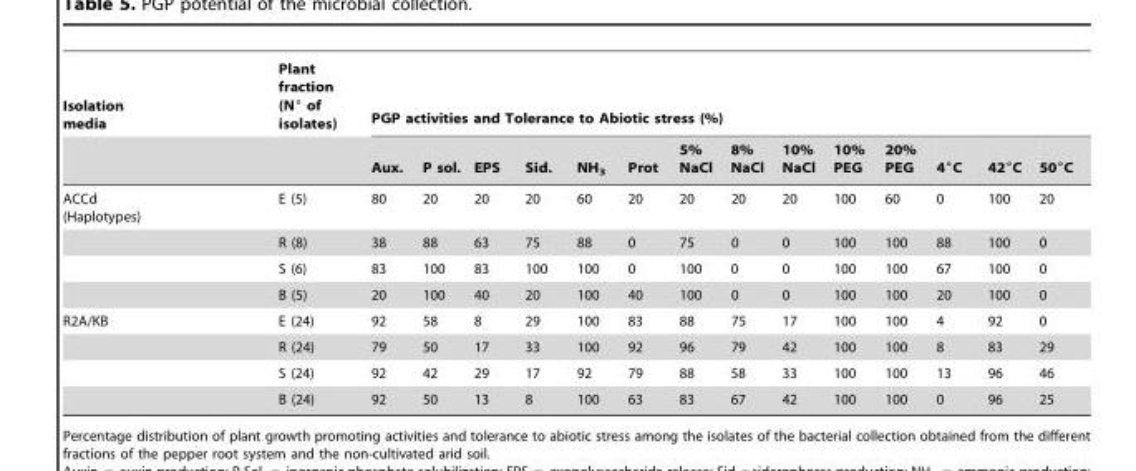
<table><thead><tr><td rowspan="2">Isolation media</td><td rowspan="2">Plant fraction (N° of isolates)</td><td colspan="14">PGP activities and Tolerance to Abiotic stress (%)</td></tr><tr><td>Aux.</td><td>P sol.</td><td>EPS</td><td>Sid.</td><td>NH<sub>3</sub></td><td>Prot</td><td>5% NaCl</td><td>8% NaCl</td><td>10% NaCl</td><td>10% PEG</td><td>20% PEG</td><td>4°C</td><td>42°C</td><td>50°C</td></tr></thead><tbody><tr><td rowspan="4">ACCd (Haplotypes)</td><td>E (5)</td><td>80</td><td>20</td><td>20</td><td>20</td><td>60</td><td>20</td><td>20</td><td>20</td><td>20</td><td>100</td><td>60</td><td>0</td><td>100</td><td>20</td></tr><tr><td>R (8)</td><td>38</td><td>88</td><td>63</td><td>75</td><td>88</td><td>0</td><td>75</td><td>0</td><td>0</td><td>100</td><td>100</td><td>88</td><td>100</td><td>0</td></tr><tr><td>S (6)</td><td>83</td><td>100</td><td>83</td><td>100</td><td>100</td><td>0</td><td>100</td><td>0</td><td>0</td><td>100</td><td>100</td><td>67</td><td>100</td><td>0</td></tr><tr><td>B (5)</td><td>20</td><td>100</td><td>40</td><td>20</td><td>100</td><td>40</td><td>100</td><td>0</td><td>0</td><td>100</td><td>100</td><td>20</td><td>100</td><td>0</td></tr><tr><td rowspan="4">R2A/KB</td><td>E (24)</td><td>92</td><td>58</td><td>8</td><td>29</td><td>100</td><td>83</td><td>88</td><td>75</td><td>17</td><td>100</td><td>100</td><td>4</td><td>92</td><td>0</td></tr><tr><td>R (24)</td><td>79</td><td>50</td><td>17</td><td>33</td><td>100</td><td>92</td><td>96</td><td>79</td><td>42</td><td>100</td><td>100</td><td>8</td><td>83</td><td>29</td></tr><tr><td>S (24)</td><td>92</td><td>42</td><td>29</td><td>17</td><td>92</td><td>79</td><td>88</td><td>58</td><td>33</td><td>100</td><td>100</td><td>13</td><td>96</td><td>46</td></tr><tr><td>B (24)</td><td>92</td><td>50</td><td>13</td><td>8</td><td>100</td><td>63</td><td>83</td><td>67</td><td>42</td><td>100</td><td>100</td><td>0</td><td>96</td><td>25</td></tr></tbody></table>